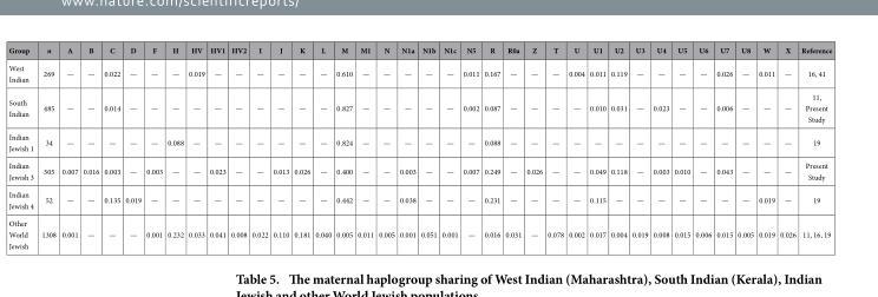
<table><thead><tr><td>Group</td><td>n</td><td>A</td><td>B</td><td>C</td><td>D</td><td>F</td><td>H</td><td>HV</td><td>HV1</td><td>HV2</td><td>I</td><td>J</td><td>K</td><td>L</td><td>M</td><td>M1</td><td>N</td><td>N1a</td><td>N1b</td><td>N1c</td><td>N5</td><td>R</td><td>R0a</td><td>Z</td><td>T</td><td>U</td><td>U1</td><td>U2</td><td>U3</td><td>U4</td><td>U5</td><td>U6</td><td>U7</td><td>U8</td><td>W</td><td>X</td><td>Reference</td></tr></thead><tbody><tr><td>West Indian</td><td>269</td><td>—</td><td>—</td><td>0.022</td><td>—</td><td>—</td><td>—</td><td>0.019</td><td>—</td><td>—</td><td>—</td><td>—</td><td>—</td><td>—</td><td>0.610</td><td>—</td><td>—</td><td>—</td><td>—</td><td>—</td><td>0.011</td><td>0.167</td><td>—</td><td>—</td><td>—</td><td>0.004</td><td>0.011</td><td>0.119</td><td>—</td><td>—</td><td>—</td><td>—</td><td>0.026</td><td>—</td><td>0.011</td><td>—</td><td>16, 41</td></tr><tr><td>South Indian</td><td>485</td><td>—</td><td>—</td><td>0.014</td><td>—</td><td>—</td><td>—</td><td>—</td><td>—</td><td>—</td><td>—</td><td>—</td><td>—</td><td>—</td><td>0.827</td><td>—</td><td>—</td><td>—</td><td>—</td><td>—</td><td>0.002</td><td>0.087</td><td>—</td><td>—</td><td>—</td><td>—</td><td>0.010</td><td>0.031</td><td>—</td><td>0.023</td><td>—</td><td>—</td><td>0.006</td><td>—</td><td>—</td><td>—</td><td>11, Present Study</td></tr><tr><td>Indian Jewish 1</td><td>34</td><td>—</td><td>—</td><td>—</td><td>—</td><td>—</td><td>0.088</td><td>—</td><td>—</td><td>—</td><td>—</td><td>—</td><td>—</td><td>—</td><td>0.824</td><td>—</td><td>—</td><td>—</td><td>—</td><td>—</td><td>—</td><td>0.088</td><td>—</td><td>—</td><td>—</td><td>—</td><td>—</td><td>—</td><td>—</td><td>—</td><td>—</td><td>—</td><td>—</td><td>—</td><td>—</td><td>—</td><td>19</td></tr><tr><td>Indian Jewish 3</td><td>305</td><td>0.007</td><td>0.016</td><td>0.003</td><td>—</td><td>0.003</td><td>—</td><td>—</td><td>0.023</td><td>—</td><td>—</td><td>0.013</td><td>0.026</td><td>—</td><td>0.400</td><td>—</td><td>—</td><td>0.003</td><td>—</td><td>—</td><td>0.007</td><td>0.249</td><td>—</td><td>0.026</td><td>—</td><td>—</td><td>0.049</td><td>0.118</td><td>—</td><td>0.003</td><td>0.010</td><td>—</td><td>0.043</td><td>—</td><td>—</td><td>—</td><td>Present Study</td></tr><tr><td>Indian Jewish 4</td><td>52</td><td>—</td><td>—</td><td>0.135</td><td>0.019</td><td>—</td><td>—</td><td>—</td><td>—</td><td>—</td><td>—</td><td>—</td><td>—</td><td>—</td><td>0.442</td><td>—</td><td>—</td><td>0.038</td><td>—</td><td>—</td><td>—</td><td>0.231</td><td>—</td><td>—</td><td>—</td><td>—</td><td>0.115</td><td>—</td><td>—</td><td>—</td><td>—</td><td>—</td><td>—</td><td>—</td><td>0.019</td><td>—</td><td>19</td></tr><tr><td>Other World Jewish</td><td>1308</td><td>0.001</td><td>—</td><td>—</td><td>—</td><td>0.001</td><td>0.232</td><td>0.033</td><td>0.041</td><td>0.008</td><td>0.022</td><td>0.110</td><td>0.181</td><td>0.040</td><td>0.005</td><td>0.011</td><td>0.005</td><td>0.001</td><td>0.051</td><td>0.001</td><td>—</td><td>0.016</td><td>0.031</td><td>—</td><td>0.078</td><td>0.002</td><td>0.017</td><td>0.004</td><td>0.019</td><td>0.008</td><td>0.015</td><td>0.006</td><td>0.015</td><td>0.005</td><td>0.019</td><td>0.026</td><td>11, 16, 19</td></tr></tbody></table>